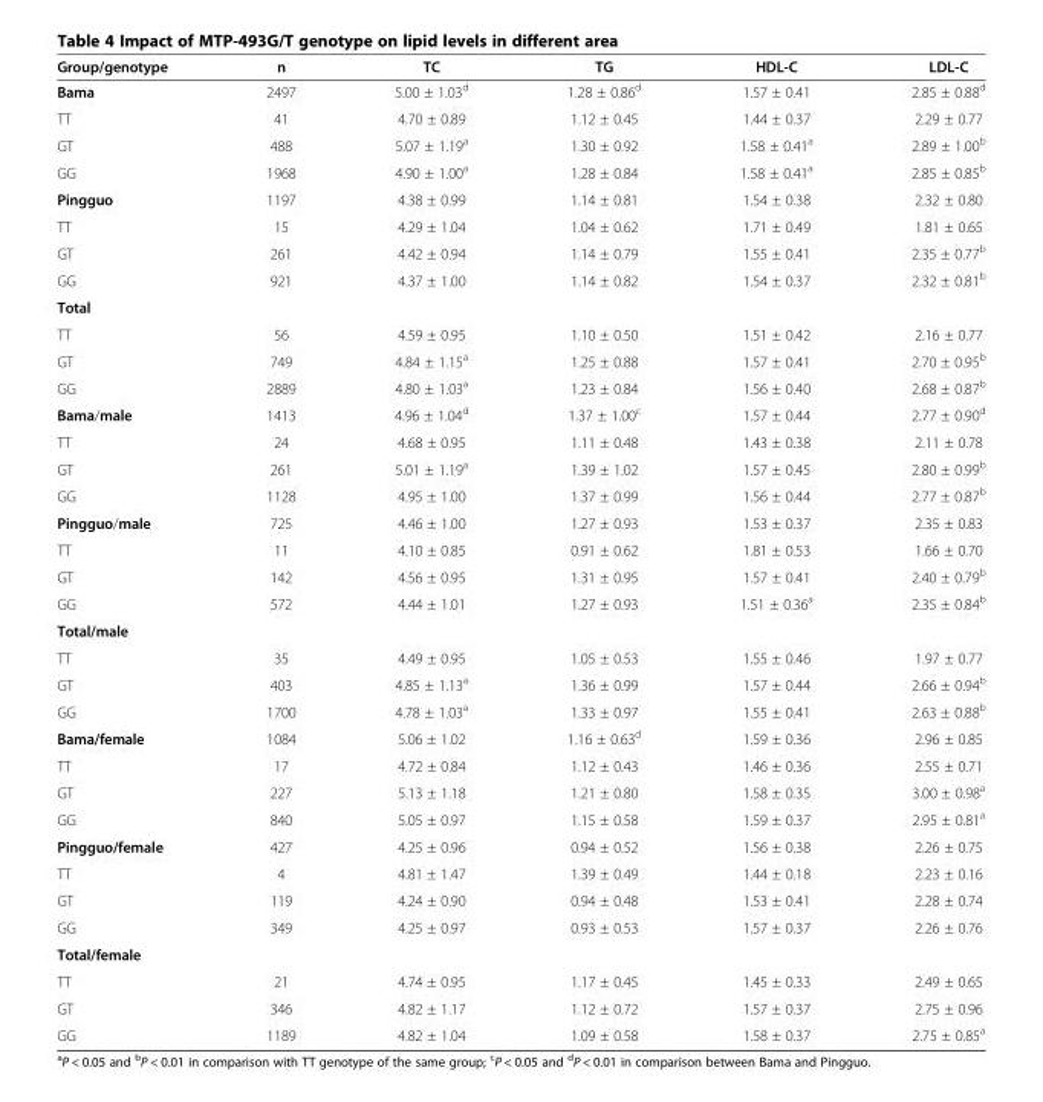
<table><thead><tr><td>Group/genotype</td><td>n</td><td>TC</td><td>TG</td><td>HDL-C</td><td>LDL-C</td></tr></thead><tbody><tr><td>Bama</td><td>2497</td><td>5.00 ± 1.03<sup>d</sup></td><td>1.28 ± 0.86<sup>d</sup></td><td>1.57 ± 0.41</td><td>2.85 ± 0.88<sup>d</sup></td></tr><tr><td>TT</td><td>41</td><td>4.70 ± 0.89</td><td>1.12 ± 0.45</td><td>1.44 ± 0.37</td><td>2.29 ± 0.77</td></tr><tr><td>GT</td><td>488</td><td>5.07 ± 1.19<sup>a</sup></td><td>1.30 ± 0.92</td><td>1.58 ± 0.41<sup>a</sup></td><td>2.89 ± 1.00<sup>b</sup></td></tr><tr><td>GG</td><td>1968</td><td>4.90 ± 1.00<sup>a</sup></td><td>1.28 ± 0.84</td><td>1.58 ± 0.41<sup>a</sup></td><td>2.85 ± 0.85<sup>b</sup></td></tr><tr><td>Pingguo</td><td>1197</td><td>4.38 ± 0.99</td><td>1.14 ± 0.81</td><td>1.54 ± 0.38</td><td>2.32 ± 0.80</td></tr><tr><td>TT</td><td>15</td><td>4.29 ± 1.04</td><td>1.04 ± 0.62</td><td>1.71 ± 0.49</td><td>1.81 ± 0.65</td></tr><tr><td>GT</td><td>261</td><td>4.42 ± 0.94</td><td>1.14 ± 0.79</td><td>1.55 ± 0.41</td><td>2.35 ± 0.77<sup>b</sup></td></tr><tr><td>GG</td><td>921</td><td>4.37 ± 1.00</td><td>1.14 ± 0.82</td><td>1.54 ± 0.37</td><td>2.32 ± 0.81<sup>b</sup></td></tr><tr><td colspan="6">Total</td></tr><tr><td>TT</td><td>56</td><td>4.59 ± 0.95</td><td>1.10 ± 0.50</td><td>1.51 ± 0.42</td><td>2.16 ± 0.77</td></tr><tr><td>GT</td><td>749</td><td>4.84 ± 1.15<sup>a</sup></td><td>1.25 ± 0.88</td><td>1.57 ± 0.41</td><td>2.70 ± 0.95<sup>b</sup></td></tr><tr><td>GG</td><td>2889</td><td>4.80 ± 1.03<sup>a</sup></td><td>1.23 ± 0.84</td><td>1.56 ± 0.40</td><td>2.68 ± 0.87<sup>b</sup></td></tr><tr><td>Bama/male</td><td>1413</td><td>4.96 ± 1.04<sup>d</sup></td><td>1.37 ± 1.00<sup>c</sup></td><td>1.57 ± 0.44</td><td>2.77 ± 0.90<sup>d</sup></td></tr><tr><td>TT</td><td>24</td><td>4.68 ± 0.95</td><td>1.11 ± 0.48</td><td>1.43 ± 0.38</td><td>2.11 ± 0.78</td></tr><tr><td>GT</td><td>261</td><td>5.01 ± 1.19<sup>a</sup></td><td>1.39 ± 1.02</td><td>1.57 ± 0.45</td><td>2.80 ± 0.99<sup>b</sup></td></tr><tr><td>GG</td><td>1128</td><td>4.95 ± 1.00</td><td>1.37 ± 0.99</td><td>1.56 ± 0.44</td><td>2.77 ± 0.87<sup>b</sup></td></tr><tr><td>Pingguo/male</td><td>725</td><td>4.46 ± 1.00</td><td>1.27 ± 0.93</td><td>1.53 ± 0.37</td><td>2.35 ± 0.83</td></tr><tr><td>TT</td><td>11</td><td>4.10 ± 0.85</td><td>0.91 ± 0.62</td><td>1.81 ± 0.53</td><td>1.66 ± 0.70</td></tr><tr><td>GT</td><td>142</td><td>4.56 ± 0.95</td><td>1.31 ± 0.95</td><td>1.57 ± 0.41</td><td>2.40 ± 0.79<sup>b</sup></td></tr><tr><td>GG</td><td>572</td><td>4.44 ± 1.01</td><td>1.27 ± 0.93</td><td>1.51 ± 0.36<sup>a</sup></td><td>2.35 ± 0.84<sup>b</sup></td></tr><tr><td colspan="6">Total/male</td></tr><tr><td>TT</td><td>35</td><td>4.49 ± 0.95</td><td>1.05 ± 0.53</td><td>1.55 ± 0.46</td><td>1.97 ± 0.77</td></tr><tr><td>GT</td><td>403</td><td>4.85 ± 1.13<sup>a</sup></td><td>1.36 ± 0.99</td><td>1.57 ± 0.44</td><td>2.66 ± 0.94<sup>b</sup></td></tr><tr><td>GG</td><td>1700</td><td>4.78 ± 1.03<sup>a</sup></td><td>1.33 ± 0.97</td><td>1.55 ± 0.41</td><td>2.63 ± 0.88<sup>b</sup></td></tr><tr><td>Bama/female</td><td>1084</td><td>5.06 ± 1.02</td><td>1.16 ± 0.63<sup>d</sup></td><td>1.59 ± 0.36</td><td>2.96 ± 0.85</td></tr><tr><td>TT</td><td>17</td><td>4.72 ± 0.84</td><td>1.12 ± 0.43</td><td>1.46 ± 0.36</td><td>2.55 ± 0.71</td></tr><tr><td>GT</td><td>227</td><td>5.13 ± 1.18</td><td>1.21 ± 0.80</td><td>1.58 ± 0.35</td><td>3.00 ± 0.98<sup>a</sup></td></tr><tr><td>GG</td><td>840</td><td>5.05 ± 0.97</td><td>1.15 ± 0.58</td><td>1.59 ± 0.37</td><td>2.95 ± 0.81<sup>a</sup></td></tr><tr><td>Pingguo/female</td><td>427</td><td>4.25 ± 0.96</td><td>0.94 ± 0.52</td><td>1.56 ± 0.38</td><td>2.26 ± 0.75</td></tr><tr><td>TT</td><td>4</td><td>4.81 ± 1.47</td><td>1.39 ± 0.49</td><td>1.44 ± 0.18</td><td>2.23 ± 0.16</td></tr><tr><td>GT</td><td>119</td><td>4.24 ± 0.90</td><td>0.94 ± 0.48</td><td>1.53 ± 0.41</td><td>2.28 ± 0.74</td></tr><tr><td>GG</td><td>349</td><td>4.25 ± 0.97</td><td>0.93 ± 0.53</td><td>1.57 ± 0.37</td><td>2.26 ± 0.76</td></tr><tr><td colspan="6">Total/female</td></tr><tr><td>TT</td><td>21</td><td>4.74 ± 0.95</td><td>1.17 ± 0.45</td><td>1.45 ± 0.33</td><td>2.49 ± 0.65</td></tr><tr><td>GT</td><td>346</td><td>4.82 ± 1.17</td><td>1.12 ± 0.72</td><td>1.57 ± 0.37</td><td>2.75 ± 0.96</td></tr><tr><td>GG</td><td>1189</td><td>4.82 ± 1.04</td><td>1.09 ± 0.58</td><td>1.58 ± 0.37</td><td>2.75 ± 0.85<sup>a</sup></td></tr></tbody></table>